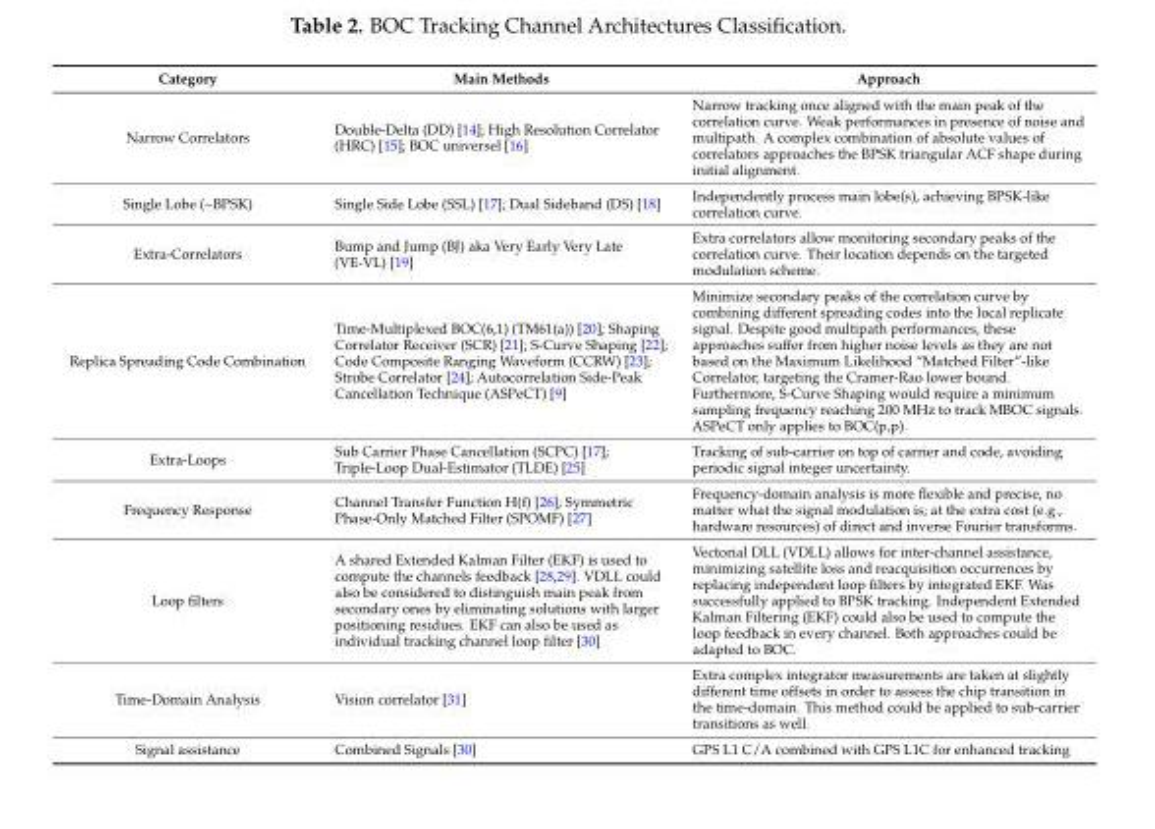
<table><thead><tr><td>Category</td><td>Main Methods</td><td>Approach</td></tr></thead><tbody><tr><td>Narrow Correlators</td><td>Double-Delta (DD) [14]; High Resolution Correlator (HRC) [15]; BOC universel [16]</td><td>Narrow tracking once aligned with the main peak of the correlation curve. Weak performances in presence of noise and multipath. A complex combination of absolute values of correlators approaches the BPSK triangular ACF shape during initial alignment.</td></tr><tr><td>Single Lobe (~BPSK)</td><td>Single Side Lobe (SSL) [17]; Dual Sideband (DS) [18]</td><td>Independently process main lobe(s), achieving BPSK-like correlation curve.</td></tr><tr><td>Extra-Correlators</td><td>Bump and Jump (BJ) aka Very Early Very Late (VE-VL) [19]</td><td>Extra correlators allow monitoring secondary peaks of the correlation curve. Their location depends on the targeted modulation scheme.</td></tr><tr><td>Replica Spreading Code Combination</td><td>Time-Multiplexed BOC(6,1) (TM61(a)) [20]; Shaping Correlator Receiver (SCR) [21]; S-Curve Shaping [22]; Code Composite Ranging Waveform (CCRW) [23]; Strobe Correlator [24]; Autocorrelation Side-Peak Cancellation Technique (ASPeCT) [9]</td><td>Minimize secondary peaks of the correlation curve by combining different spreading codes into the local replicate signal. Despite good multipath performances, these approaches suffer from higher noise levels as they are not based on the Maximum Likelihood “Matched Filter”-like Correlator, targeting the Cramer-Rao lower bound. Furthermore, S-Curve Shaping would require a minimum sampling frequency reaching 200 MHz to track MBOC signals. ASPeCT only applies to BOC(p,p).</td></tr><tr><td>Extra-Loops</td><td>Sub Carrier Phase Cancellation (SCPC) [17]; Triple-Loop Dual-Estimator (TLDE) [25]</td><td>Tracking of sub-carrier on top of carrier and code, avoiding periodic signal integer uncertainty.</td></tr><tr><td>Frequency Response</td><td>Channel Transfer Function H(f) [26]; Symmetric Phase-Only Matched Filter (SPOMF) [27]</td><td>Frequency-domain analysis is more flexible and precise, no matter what the signal modulation is; at the extra cost (e.g., hardware resources) of direct and inverse Fourier transforms.</td></tr><tr><td>Loop filters</td><td>A shared Extended Kalman Filter (EKF) is used to compute the channels feedback [28,29]. VDLL could also be considered to distinguish main peak from secondary ones by eliminating solutions with larger positioning residues. EKF can also be used as individual tracking channel loop filter [30]</td><td>Vectorial DLL (VDLL) allows for inter-channel assistance, minimizing satellite loss and reacquisition occurrences by replacing independent loop filters by integrated EKF. Was successfully applied to BPSK tracking. Independent Extended Kalman Filtering (EKF) could also be used to compute the loop feedback in every channel. Both approaches could be adapted to BOC.</td></tr><tr><td>Time-Domain Analysis</td><td>Vision correlator [31]</td><td>Extra complex integrator measurements are taken at slightly different time offsets in order to assess the chip transition in the time-domain. This method could be applied to sub-carrier transitions as well.</td></tr><tr><td>Signal assistance</td><td>Combined Signals [30]</td><td>GPS L1 C/A combined with GPS L1C for enhanced tracking</td></tr></tbody></table>